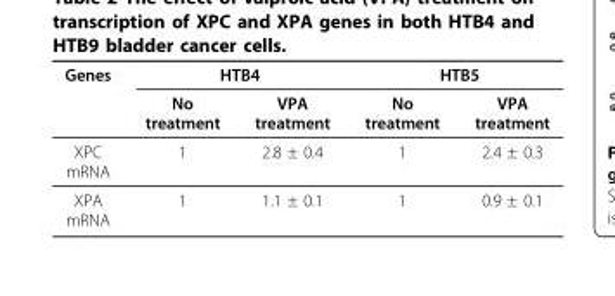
<table><thead><tr><td rowspan="2">Genes</td><td colspan="2">HTB4</td><td colspan="2">HTB5</td></tr><tr><td>No treatment</td><td>VPA treatment</td><td>No treatment</td><td>VPA treatment</td></tr></thead><tbody><tr><td>XPC mRNA</td><td>1</td><td>2.8 ± 0.4</td><td>1</td><td>2.4 ± 0.3</td></tr><tr><td>XPA mRNA</td><td>1</td><td>1.1 ± 0.1</td><td>1</td><td>0.9 ± 0.1</td></tr></tbody></table>